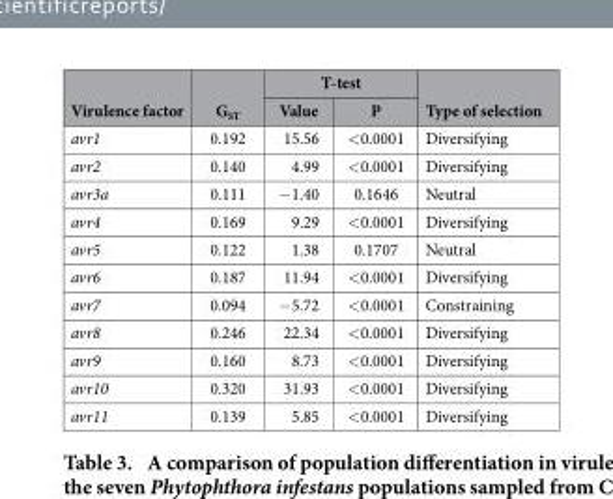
<table><thead><tr><td rowspan="2">Virulence factor</td><td rowspan="2">G<sub>ST</sub></td><td colspan="2">T-test</td><td rowspan="2">Type of selection</td></tr><tr><td>Value</td><td>P</td></tr></thead><tbody><tr><td>avr1</td><td>0.192</td><td>15.56</td><td>&lt; 0.0001</td><td>Diversifying</td></tr><tr><td>avr2</td><td>0.140</td><td>4.99</td><td>&lt; 0.0001</td><td>Diversifying</td></tr><tr><td>avr3a</td><td>0.111</td><td>− 1.40</td><td>0.1646</td><td>Neutral</td></tr><tr><td>avr4</td><td>0.169</td><td>9.29</td><td>&lt; 0.0001</td><td>Diversifying</td></tr><tr><td>avr5</td><td>0.122</td><td>1.38</td><td>0.1707</td><td>Neutral</td></tr><tr><td>avr6</td><td>0.187</td><td>11.94</td><td>&lt; 0.0001</td><td>Diversifying</td></tr><tr><td>avr7</td><td>0.094</td><td>− 5.72</td><td>&lt; 0.0001</td><td>Constraining</td></tr><tr><td>avr8</td><td>0.246</td><td>22.34</td><td>&lt; 0.0001</td><td>Diversifying</td></tr><tr><td>avr9</td><td>0.160</td><td>8.73</td><td>&lt; 0.0001</td><td>Diversifying</td></tr><tr><td>avr10</td><td>0.320</td><td>31.93</td><td>&lt; 0.0001</td><td>Diversifying</td></tr><tr><td>avr11</td><td>0.139</td><td>5.85</td><td>&lt; 0.0001</td><td>Diversifying</td></tr></tbody></table>